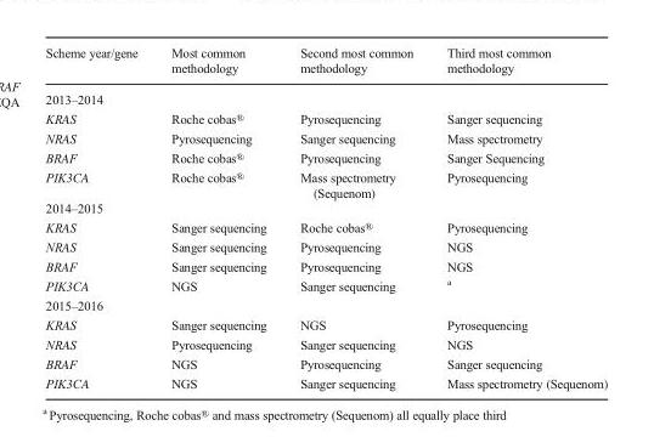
<table><thead><tr><td>Scheme year/gene</td><td>Most common methodology</td><td>Second most common methodology</td><td>Third most common methodology</td></tr></thead><tbody><tr><td colspan="4">2013–2014</td></tr><tr><td>KRAS</td><td>Roche cobas®</td><td>Pyrosequencing</td><td>Sanger sequencing</td></tr><tr><td>NRAS</td><td>Pyrosequencing</td><td>Sanger sequencing</td><td>Mass spectrometry</td></tr><tr><td>BRAF</td><td>Roche cobas®</td><td>Pyrosequencing</td><td>Sanger Sequencing</td></tr><tr><td>PIK3CA</td><td>Roche cobas®</td><td>Mass spectrometry (Sequenom)</td><td>Pyrosequencing</td></tr><tr><td colspan="4">2014–2015</td></tr><tr><td>KRAS</td><td>Sanger sequencing</td><td>Roche cobas®</td><td>Pyrosequencing</td></tr><tr><td>NRAS</td><td>Sanger sequencing</td><td>Pyrosequencing</td><td>NGS</td></tr><tr><td>BRAF</td><td>Sanger sequencing</td><td>Pyrosequencing</td><td>NGS</td></tr><tr><td>PIK3CA</td><td>NGS</td><td>Sanger sequencing</td><td><sup>a</sup></td></tr><tr><td colspan="4">2015–2016</td></tr><tr><td>KRAS</td><td>Sanger sequencing</td><td>NGS</td><td>Pyrosequencing</td></tr><tr><td>NRAS</td><td>Pyrosequencing</td><td>Sanger sequencing</td><td>NGS</td></tr><tr><td>BRAF</td><td>NGS</td><td>Pyrosequencing</td><td>Sanger sequencing</td></tr><tr><td>PIK3CA</td><td>NGS</td><td>Sanger sequencing</td><td>Mass spectrometry (Sequenom)</td></tr></tbody></table>